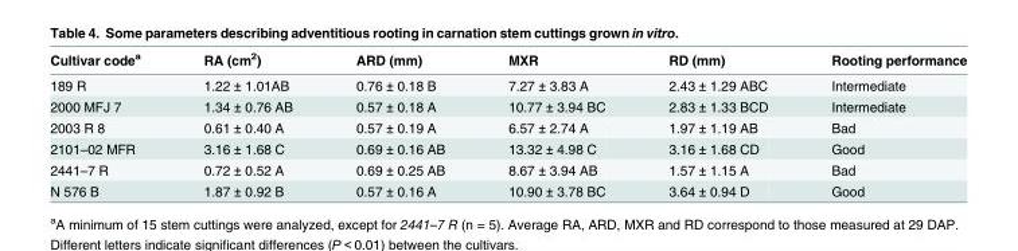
<table><thead><tr><td>Cultivar code<sup>a</sup></td><td>RA (cm<sup>2</sup>)</td><td>ARD (mm)</td><td>MXR</td><td>RD (mm)</td><td>Rooting performance</td></tr></thead><tbody><tr><td>189 R</td><td>1.22 ± 1.01AB</td><td>0.76 ± 0.18 B</td><td>7.27 ± 3.83 A</td><td>2.43 ± 1.29 ABC</td><td>Intermediate</td></tr><tr><td>2000 MFJ 7</td><td>1.34 ± 0.76 AB</td><td>0.57 ± 0.18 A</td><td>10.77 ± 3.94 BC</td><td>2.83 ± 1.33 BCD</td><td>Intermediate</td></tr><tr><td>2003 R 8</td><td>0.61 ± 0.40 A</td><td>0.57 ± 0.19 A</td><td>6.57 ± 2.74 A</td><td>1.97 ± 1.19 AB</td><td>Bad</td></tr><tr><td>2101–02 MFR</td><td>3.16 ± 1.68 C</td><td>0.69 ± 0.16 AB</td><td>13.32 ± 4.98 C</td><td>3.16 ± 1.68 CD</td><td>Good</td></tr><tr><td>2441–7 R</td><td>0.72 ± 0.52 A</td><td>0.69 ± 0.25 AB</td><td>8.67 ± 3.94 AB</td><td>1.57 ± 1.15 A</td><td>Bad</td></tr><tr><td>N 576 B</td><td>1.87 ± 0.92 B</td><td>0.57 ± 0.16 A</td><td>10.90 ± 3.78 BC</td><td>3.64 ± 0.94 D</td><td>Good</td></tr></tbody></table>